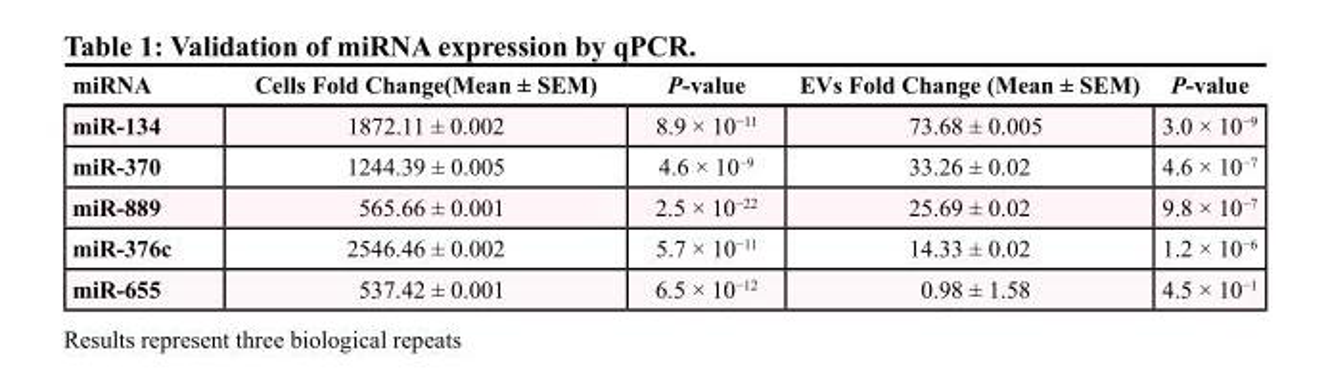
<table><thead><tr><td>miRNA</td><td>Cells Fold Change(Mean ± SEM)</td><td>P-value</td><td>EVs Fold Change (Mean ± SEM)</td><td>P-value</td></tr></thead><tbody><tr><td>miR-134</td><td>1872.11 ± 0.002</td><td>8.9 × 10<sup>−11</sup></td><td>73.68 ± 0.005</td><td>3.0 × 10<sup>−9</sup></td></tr><tr><td>miR-370</td><td>1244.39 ± 0.005</td><td>4.6 × 10<sup>−9</sup></td><td>33.26 ± 0.02</td><td>4.6 × 10<sup>−7</sup></td></tr><tr><td>miR-889</td><td>565.66 ± 0.001</td><td>2.5 × 10<sup>−22</sup></td><td>25.69 ± 0.02</td><td>9.8 × 10<sup>−7</sup></td></tr><tr><td>miR-376c</td><td>2546.46 ± 0.002</td><td>5.7 × 10<sup>−11</sup></td><td>14.33 ± 0.02</td><td>1.2 × 10<sup>−6</sup></td></tr><tr><td>miR-655</td><td>537.42 ± 0.001</td><td>6.5 × 10<sup>−12</sup></td><td>0.98 ± 1.58</td><td>4.5 × 10<sup>−1</sup></td></tr></tbody></table>